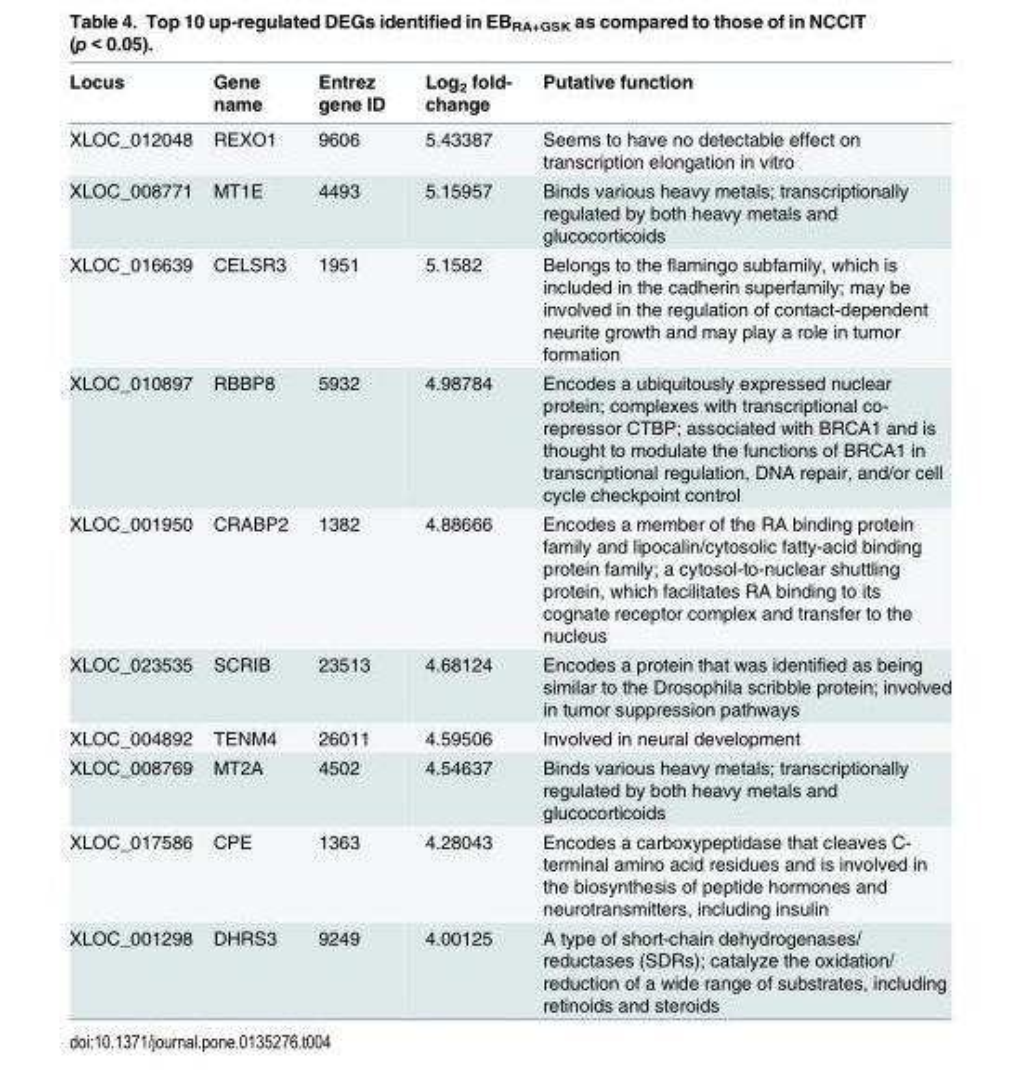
<table><thead><tr><td>Locus</td><td>Gene name</td><td>Entrez gene ID</td><td>Log<sub>2</sub> fold- change</td><td>Putative function</td></tr></thead><tbody><tr><td>XLOC_012048</td><td>REXO1</td><td>9606</td><td>5.43387</td><td>Seems to have no detectable effect on transcription elongation in vitro</td></tr><tr><td>XLOC_008771</td><td>MT1E</td><td>4493</td><td>5.15957</td><td>Binds various heavy metals; transcriptionally regulated by both heavy metals and glucocorticoids</td></tr><tr><td>XLOC_016639</td><td>CELSR3</td><td>1951</td><td>5.1582</td><td>Belongs to the flamingo subfamily, which is included in the cadherin superfamily; may be involved in the regulation of contact-dependent neurite growth and may play a role in tumor formation</td></tr><tr><td>XLOC_010897</td><td>RBBP8</td><td>5932</td><td>4.98784</td><td>Encodes a ubiquitously expressed nuclear protein; complexes with transcriptional co- repressor CTBP; associated with BRCA1 and is thought to modulate the functions of BRCA1 in transcriptional regulation, DNA repair, and/or cell cycle checkpoint control</td></tr><tr><td>XLOC_001950</td><td>CRABP2</td><td>1382</td><td>4.88666</td><td>Encodes a member of the RA binding protein family and lipocalin/cytosolic fatty-acid binding protein family; a cytosol-to-nuclear shuttling protein, which facilitates RA binding to its cognate receptor complex and transfer to the nucleus</td></tr><tr><td>XLOC_023535</td><td>SCRIB</td><td>23513</td><td>4.68124</td><td>Encodes a protein that was identified as being similar to the Drosophila scribble protein; involved in tumor suppression pathways</td></tr><tr><td>XLOC_004892</td><td>TENM4</td><td>26011</td><td>4.59506</td><td>Involved in neural development</td></tr><tr><td>XLOC_008769</td><td>MT2A</td><td>4502</td><td>4.54637</td><td>Binds various heavy metals; transcriptionally regulated by both heavy metals and glucocorticoids</td></tr><tr><td>XLOC_017586</td><td>CPE</td><td>1363</td><td>4.28043</td><td>Encodes a carboxypeptidase that cleaves C- terminal amino acid residues and is involved in the biosynthesis of peptide hormones and neurotransmitters, including insulin</td></tr><tr><td>XLOC_001298</td><td>DHRS3</td><td>9249</td><td>4.00125</td><td>A type of short-chain dehydrogenases/ reductases (SDRs); catalyze the oxidation/ reduction of a wide range of substrates, including retinoids and steroids</td></tr></tbody></table>